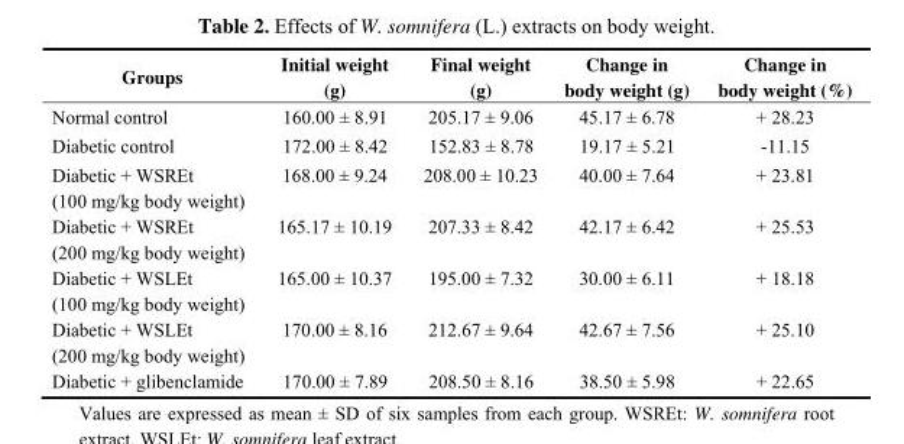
<table><thead><tr><td>Groups</td><td>Initial weight (g)</td><td>Final weight (g)</td><td>Change in body weight (g)</td><td>Change in body weight (%)</td></tr></thead><tbody><tr><td>Normal control</td><td>160.00 ± 8.91</td><td>205.17 ± 9.06</td><td>45.17 ± 6.78</td><td>+ 28.23</td></tr><tr><td>Diabetic control</td><td>172.00 ± 8.42</td><td>152.83 ± 8.78</td><td>19.17 ± 5.21</td><td>-11.15</td></tr><tr><td>Diabetic + WSREt (100 mg/kg body weight)</td><td>168.00 ± 9.24</td><td>208.00 ± 10.23</td><td>40.00 ± 7.64</td><td>+ 23.81</td></tr><tr><td>Diabetic + WSREt (200 mg/kg body weight)</td><td>165.17 ± 10.19</td><td>207.33 ± 8.42</td><td>42.17 ± 6.42</td><td>+ 25.53</td></tr><tr><td>Diabetic + WSLEt (100 mg/kg body weight)</td><td>165.00 ± 10.37</td><td>195.00 ± 7.32</td><td>30.00 ± 6.11</td><td>+ 18.18</td></tr><tr><td>Diabetic + WSLEt (200 mg/kg body weight)</td><td>170.00 ± 8.16</td><td>212.67 ± 9.64</td><td>42.67 ± 7.56</td><td>+ 25.10</td></tr><tr><td>Diabetic + glibenclamide</td><td>170.00 ± 7.89</td><td>208.50 ± 8.16</td><td>38.50 ± 5.98</td><td>+ 22.65</td></tr></tbody></table>